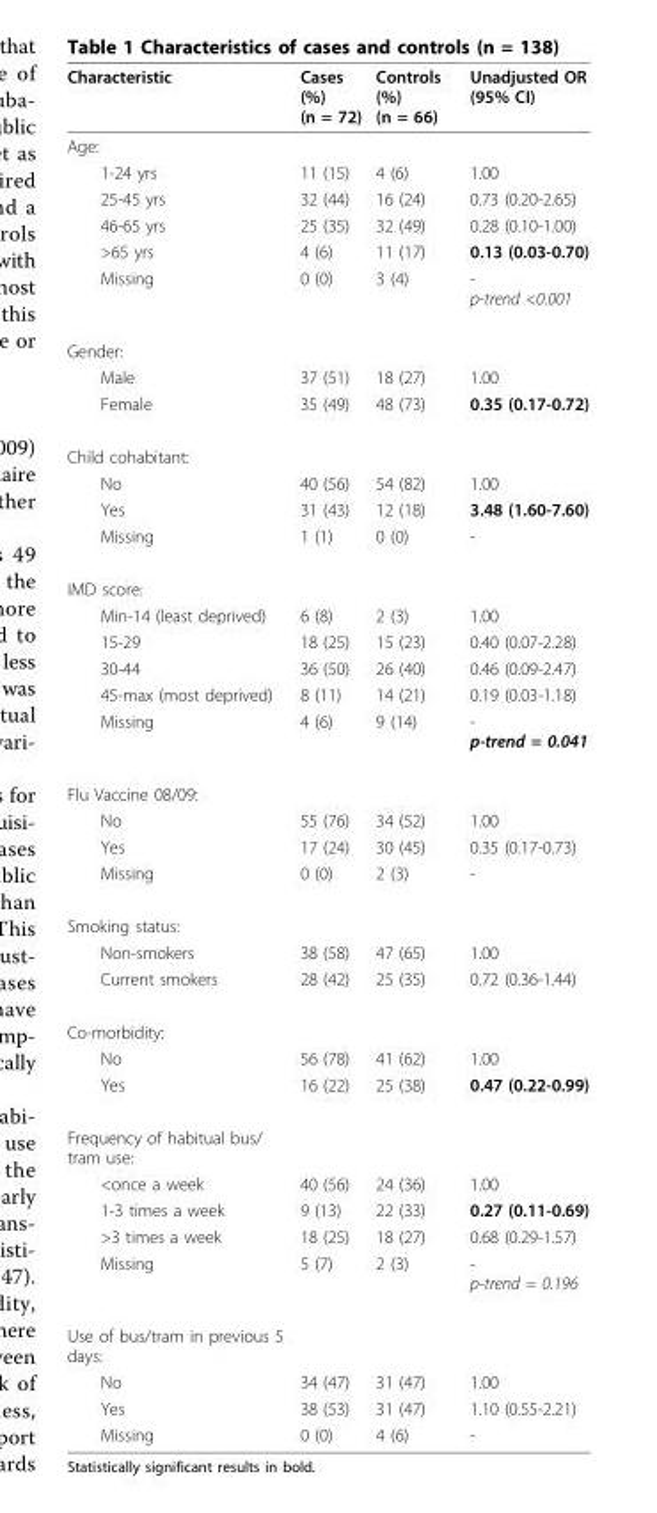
<table><thead><tr><td>Characteristic</td><td>Cases (%) (n = 72)</td><td>Controls (%) (n = 66)</td><td>Unadjusted OR (95% CI)</td></tr></thead><tbody><tr><td colspan="4">Age:</td></tr><tr><td>1-24 yrs</td><td>11 (15)</td><td>4 (6)</td><td>1.00</td></tr><tr><td>25-45 yrs</td><td>32 (44)</td><td>16 (24)</td><td>0.73 (0.20-2.65)</td></tr><tr><td>46-65 yrs</td><td>25 (35)</td><td>32 (49)</td><td>0.28 (0.10-1.00)</td></tr><tr><td>&gt;65 yrs</td><td>4 (6)</td><td>11 (17)</td><td>0.13 (0.03-0.70)</td></tr><tr><td>Missing</td><td>0 (0)</td><td>3 (4)</td><td>- p-trend &lt;0.001</td></tr><tr><td colspan="4">Gender:</td></tr><tr><td>Male</td><td>37 (51)</td><td>18 (27)</td><td>1.00</td></tr><tr><td>Female</td><td>35 (49)</td><td>48 (73)</td><td>0.35 (0.17-0.72)</td></tr><tr><td colspan="4">Child cohabitant:</td></tr><tr><td>No</td><td>40 (56)</td><td>54 (82)</td><td>1.00</td></tr><tr><td>Yes</td><td>31 (43)</td><td>12 (18)</td><td>3.48 (1.60-7.60)</td></tr><tr><td>Missing</td><td>1 (1)</td><td>0 (0)</td><td>-</td></tr><tr><td colspan="4">IMD score:</td></tr><tr><td>Min-14 (least deprived)</td><td>6 (8)</td><td>2 (3)</td><td>1.00</td></tr><tr><td>15-29</td><td>18 (25)</td><td>15 (23)</td><td>0.40 (0.07-2.28)</td></tr><tr><td>30-44</td><td>36 (50)</td><td>26 (40)</td><td>0.46 (0.09-2.47)</td></tr><tr><td>45-max (most deprived)</td><td>8 (11)</td><td>14 (21)</td><td>0.19 (0.03-1.18)</td></tr><tr><td>Missing</td><td>4 (6)</td><td>9 (14)</td><td>- p-trend = 0.041</td></tr><tr><td colspan="4">Flu Vaccine 08/09:</td></tr><tr><td>No</td><td>55 (76)</td><td>34 (52)</td><td>1.00</td></tr><tr><td>Yes</td><td>17 (24)</td><td>30 (45)</td><td>0.35 (0.17-0.73)</td></tr><tr><td>Missing</td><td>0 (0)</td><td>2 (3)</td><td>-</td></tr><tr><td colspan="4">Smoking status:</td></tr><tr><td>Non-smokers</td><td>38 (58)</td><td>47 (65)</td><td>1.00</td></tr><tr><td>Current smokers</td><td>28 (42)</td><td>25 (35)</td><td>0.72 (0.36-1.44)</td></tr><tr><td colspan="4">Co-morbidity:</td></tr><tr><td>No</td><td>56 (78)</td><td>41 (62)</td><td>1.00</td></tr><tr><td>Yes</td><td>16 (22)</td><td>25 (38)</td><td>0.47 (0.22-0.99)</td></tr><tr><td colspan="4">Frequency of habitual bus/ tram use:</td></tr><tr><td>&lt;once a week</td><td>40 (56)</td><td>24 (36)</td><td>1.00</td></tr><tr><td>1-3 times a week</td><td>9 (13)</td><td>22 (33)</td><td>0.27 (0.11-0.69)</td></tr><tr><td>&gt;3 times a week</td><td>18 (25)</td><td>18 (27)</td><td>0.68 (0.29-1.57)</td></tr><tr><td>Missing</td><td>5 (7)</td><td>2 (3)</td><td>- p-trend = 0.196</td></tr><tr><td colspan="4">Use of bus/tram in previous 5 days:</td></tr><tr><td>No</td><td>34 (47)</td><td>31 (47)</td><td>1.00</td></tr><tr><td>Yes</td><td>38 (53)</td><td>31 (47)</td><td>1.10 (0.55-2.21)</td></tr><tr><td>Missing</td><td>0 (0)</td><td>4 (6)</td><td>-</td></tr></tbody></table>